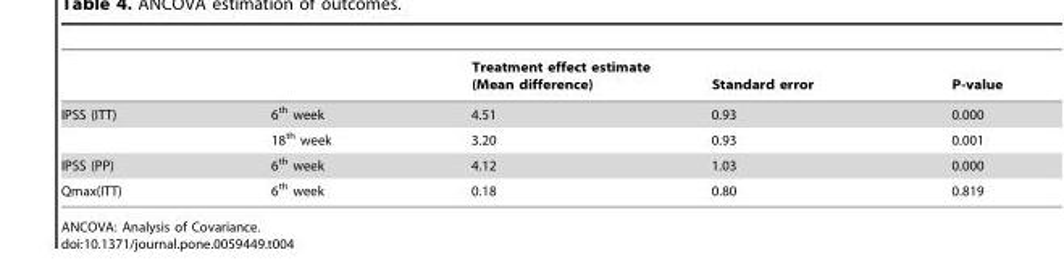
<table><thead><tr><td></td><td></td><td>Treatment effect estimate (Mean difference)</td><td>Standard error</td><td>P-value</td></tr></thead><tbody><tr><td rowspan="2">IPSS (ITT)</td><td>6<sup>th</sup> week</td><td>4.51</td><td>0.93</td><td>0.000</td></tr><tr><td>18<sup>th</sup> week</td><td>3.20</td><td>0.93</td><td>0.001</td></tr><tr><td>IPSS (PP)</td><td>6<sup>th</sup> week</td><td>4.12</td><td>1.03</td><td>0.000</td></tr><tr><td>Qmax(ITT)</td><td>6<sup>th</sup> week</td><td>0.18</td><td>0.80</td><td>0.819</td></tr></tbody></table>